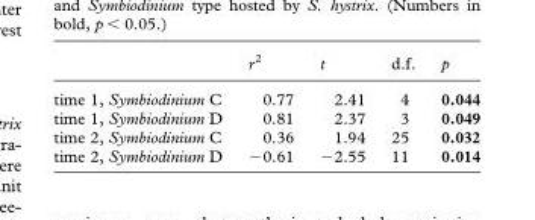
<table><thead><tr><td></td><td>r<sup>2</sup></td><td>t</td><td>d.f.</td><td>p</td></tr></thead><tbody><tr><td>time 1, Symbiodinium C</td><td>0.77</td><td>2.41</td><td>4</td><td>0.044</td></tr><tr><td>time 1, Symbiodinium D</td><td>0.81</td><td>2.37</td><td>3</td><td>0.049</td></tr><tr><td>time 2, Symbiodinium C</td><td>0.36</td><td>1.94</td><td>25</td><td>0.032</td></tr><tr><td>time 2, Symbiodinium D</td><td>−0.61</td><td>−2.55</td><td>11</td><td>0.014</td></tr></tbody></table>